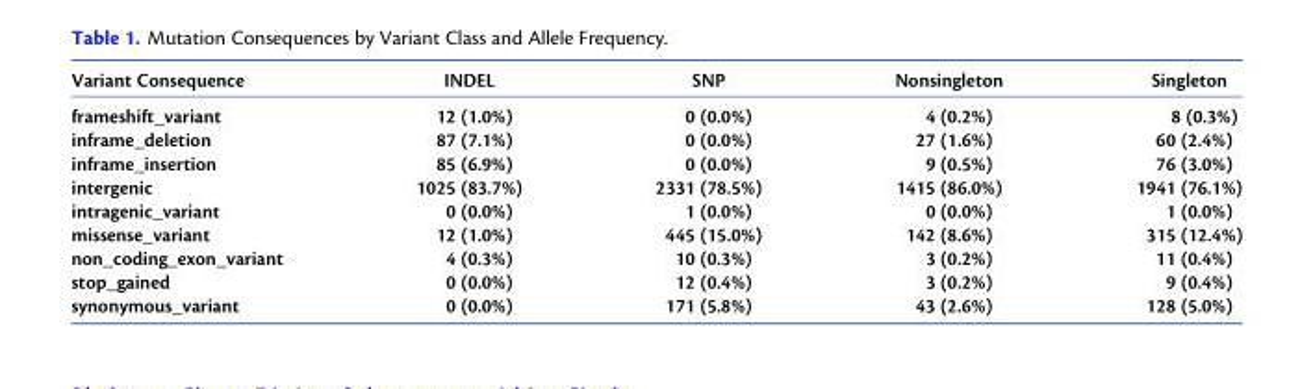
<table><thead><tr><td>Variant Consequence</td><td>INDEL</td><td>SNP</td><td>Nonsingleton</td><td>Singleton</td></tr></thead><tbody><tr><td>frameshift_variant</td><td>12 (1.0%)</td><td>0 (0.0%)</td><td>4 (0.2%)</td><td>8 (0.3%)</td></tr><tr><td>inframe_deletion</td><td>87 (7.1%)</td><td>0 (0.0%)</td><td>27 (1.6%)</td><td>60 (2.4%)</td></tr><tr><td>inframe_insertion</td><td>85 (6.9%)</td><td>0 (0.0%)</td><td>9 (0.5%)</td><td>76 (3.0%)</td></tr><tr><td>intergenic</td><td>1025 (83.7%)</td><td>2331 (78.5%)</td><td>1415 (86.0%)</td><td>1941 (76.1%)</td></tr><tr><td>intragenic_variant</td><td>0 (0.0%)</td><td>1 (0.0%)</td><td>0 (0.0%)</td><td>1 (0.0%)</td></tr><tr><td>missense_variant</td><td>12 (1.0%)</td><td>445 (15.0%)</td><td>142 (8.6%)</td><td>315 (12.4%)</td></tr><tr><td>non_coding_exon_variant</td><td>4 (0.3%)</td><td>10 (0.3%)</td><td>3 (0.2%)</td><td>11 (0.4%)</td></tr><tr><td>stop_gained</td><td>0 (0.0%)</td><td>12 (0.4%)</td><td>3 (0.2%)</td><td>9 (0.4%)</td></tr><tr><td>synonymous_variant</td><td>0 (0.0%)</td><td>171 (5.8%)</td><td>43 (2.6%)</td><td>128 (5.0%)</td></tr></tbody></table>